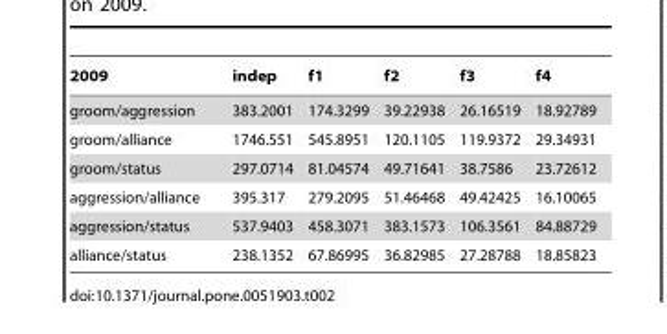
<table><thead><tr><td>2009</td><td>indep</td><td>f1</td><td>f2</td><td>f3</td><td>f4</td></tr></thead><tbody><tr><td>groom/aggression</td><td>383.2001</td><td>174.3299</td><td>39.22938</td><td>26.16519</td><td>18.92789</td></tr><tr><td>groom/alliance</td><td>1746.551</td><td>545.8951</td><td>120.1105</td><td>119.9372</td><td>29.34931</td></tr><tr><td>groom/status</td><td>297.0714</td><td>81.04574</td><td>49.71641</td><td>38.7586</td><td>23.72612</td></tr><tr><td>aggression/alliance</td><td>395.317</td><td>279.2095</td><td>51.46468</td><td>49.42425</td><td>16.10065</td></tr><tr><td>aggression/status</td><td>537.9403</td><td>458.3071</td><td>383.1573</td><td>106.3561</td><td>84.88729</td></tr><tr><td>alliance/status</td><td>238.1352</td><td>67.86995</td><td>36.82985</td><td>27.28788</td><td>18.85823</td></tr></tbody></table>